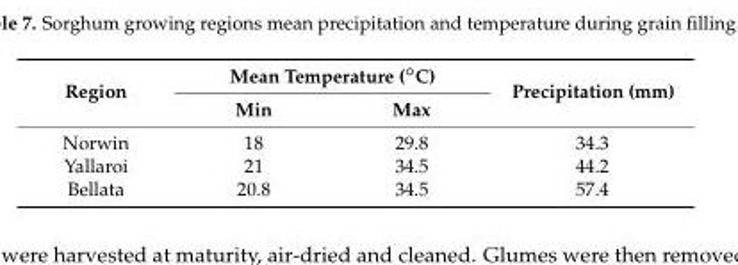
<table><thead><tr><td rowspan="2">Region</td><td colspan="2">Mean Temperature (◦C)</td><td rowspan="2">Precipitation (mm)</td></tr><tr><td>Min</td><td>Max</td></tr></thead><tbody><tr><td>Norwin</td><td>18</td><td>29.8</td><td>34.3</td></tr><tr><td>Yallaroi</td><td>21</td><td>34.5</td><td>44.2</td></tr><tr><td>Bellata</td><td>20.8</td><td>34.5</td><td>57.4</td></tr></tbody></table>